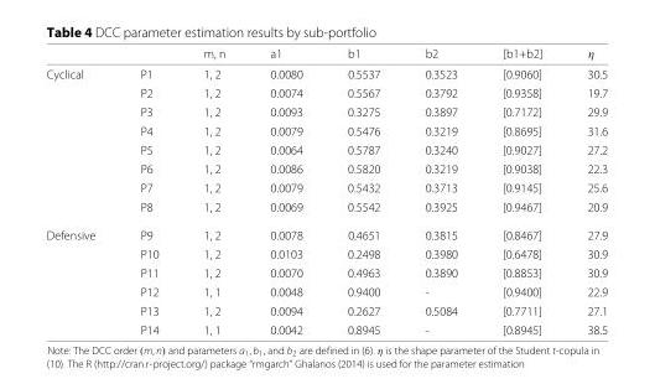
<table><thead><tr><td></td><td></td><td>m, n</td><td>a1</td><td>b1</td><td>b2</td><td>[b1+b2]</td><td>η</td></tr></thead><tbody><tr><td rowspan="8">Cyclical</td><td>P1</td><td>1, 2</td><td>0.0080</td><td>0.5537</td><td>0.3523</td><td>[0.9060]</td><td>30.5</td></tr><tr><td>P2</td><td>1, 2</td><td>0.0074</td><td>0.5567</td><td>0.3792</td><td>[0.9358]</td><td>19.7</td></tr><tr><td>P3</td><td>1, 2</td><td>0.0093</td><td>0.3275</td><td>0.3897</td><td>[0.7172]</td><td>29.9</td></tr><tr><td>P4</td><td>1, 2</td><td>0.0079</td><td>0.5476</td><td>0.3219</td><td>[0.8695]</td><td>31.6</td></tr><tr><td>P5</td><td>1, 2</td><td>0.0064</td><td>0.5787</td><td>0.3240</td><td>[0.9027]</td><td>27.2</td></tr><tr><td>P6</td><td>1, 2</td><td>0.0086</td><td>0.5820</td><td>0.3219</td><td>[0.9038]</td><td>22.3</td></tr><tr><td>P7</td><td>1, 2</td><td>0.0079</td><td>0.5432</td><td>0.3713</td><td>[0.9145]</td><td>25.6</td></tr><tr><td>P8</td><td>1, 2</td><td>0.0069</td><td>0.5542</td><td>0.3925</td><td>[0.9467]</td><td>20.9</td></tr><tr><td rowspan="6">Defensive</td><td>P9</td><td>1, 2</td><td>0.0078</td><td>0.4651</td><td>0.3815</td><td>[0.8467]</td><td>27.9</td></tr><tr><td>P10</td><td>1, 2</td><td>0.0103</td><td>0.2498</td><td>0.3980</td><td>[0.6478]</td><td>30.9</td></tr><tr><td>P11</td><td>1, 2</td><td>0.0070</td><td>0.4963</td><td>0.3890</td><td>[0.8853]</td><td>30.9</td></tr><tr><td>P12</td><td>1, 1</td><td>0.0048</td><td>0.9400</td><td>-</td><td>[0.9400]</td><td>22.9</td></tr><tr><td>P13</td><td>1, 2</td><td>0.0094</td><td>0.2627</td><td>0.5084</td><td>[0.7711]</td><td>27.1</td></tr><tr><td>P14</td><td>1, 1</td><td>0.0042</td><td>0.8945</td><td>-</td><td>[0.8945]</td><td>38.5</td></tr></tbody></table>